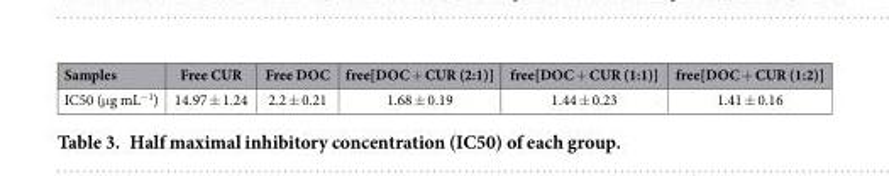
<table><thead><tr><td>Samples</td><td>Free CUR</td><td>Free DOC</td><td>free[DOC + CUR (2:1)]</td><td>free[DOC + CUR (1:1)]</td><td>free[DOC + CUR (1:2)]</td></tr></thead><tbody><tr><td>IC50 (μ g mL<sup>−1</sup>)</td><td>14.97 ± 1.24</td><td>2.2 ± 0.21</td><td>1.68 ± 0.19</td><td>1.44 ± 0.23</td><td>1.41 ± 0.16</td></tr></tbody></table>